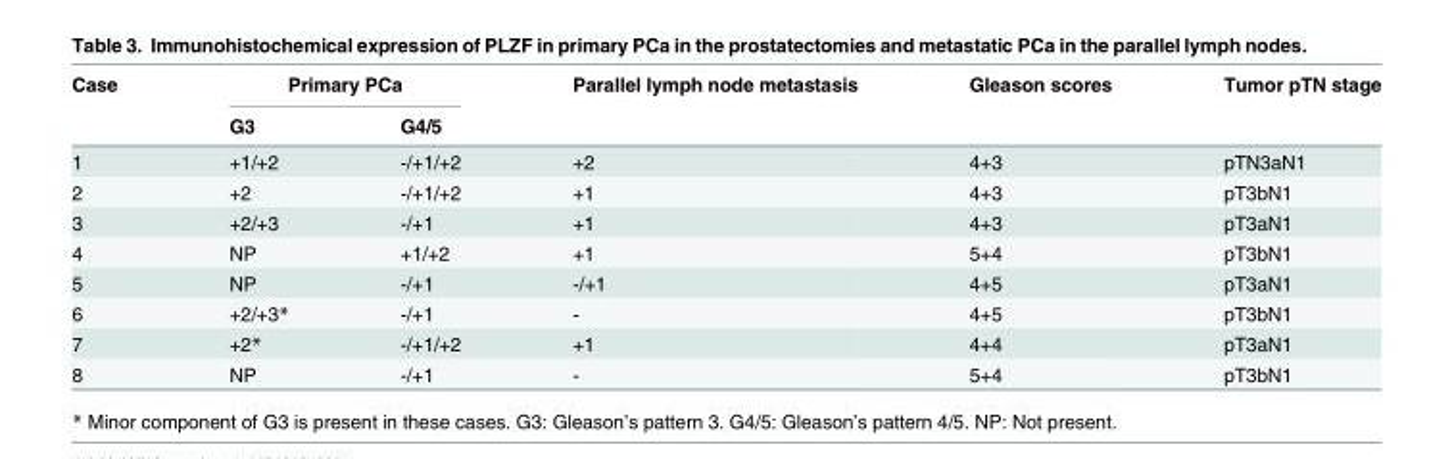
<table><thead><tr><td rowspan="2">Case</td><td colspan="2">Primary PCa</td><td rowspan="2">Parallel lymph node metastasis</td><td rowspan="2">Gleason scores</td><td rowspan="2">Tumor pTN stage</td></tr><tr><td>G3</td><td>G4/5</td></tr></thead><tbody><tr><td>1</td><td>+1/+2</td><td>-/+1/+2</td><td>+2</td><td>4+3</td><td>pTN3aN1</td></tr><tr><td>2</td><td>+2</td><td>-/+1/+2</td><td>+1</td><td>4+3</td><td>pT3bN1</td></tr><tr><td>3</td><td>+2/+3</td><td>-/+1</td><td>+1</td><td>4+3</td><td>pT3aN1</td></tr><tr><td>4</td><td>NP</td><td>+1/+2</td><td>+1</td><td>5+4</td><td>pT3bN1</td></tr><tr><td>5</td><td>NP</td><td>-/+1</td><td>-/+1</td><td>4+5</td><td>pT3aN1</td></tr><tr><td>6</td><td>+2/+3*</td><td>-/+1</td><td>-</td><td>4+5</td><td>pT3bN1</td></tr><tr><td>7</td><td>+2*</td><td>-/+1/+2</td><td>+1</td><td>4+4</td><td>pT3aN1</td></tr><tr><td>8</td><td>NP</td><td>-/+1</td><td>-</td><td>5+4</td><td>pT3bN1</td></tr></tbody></table>